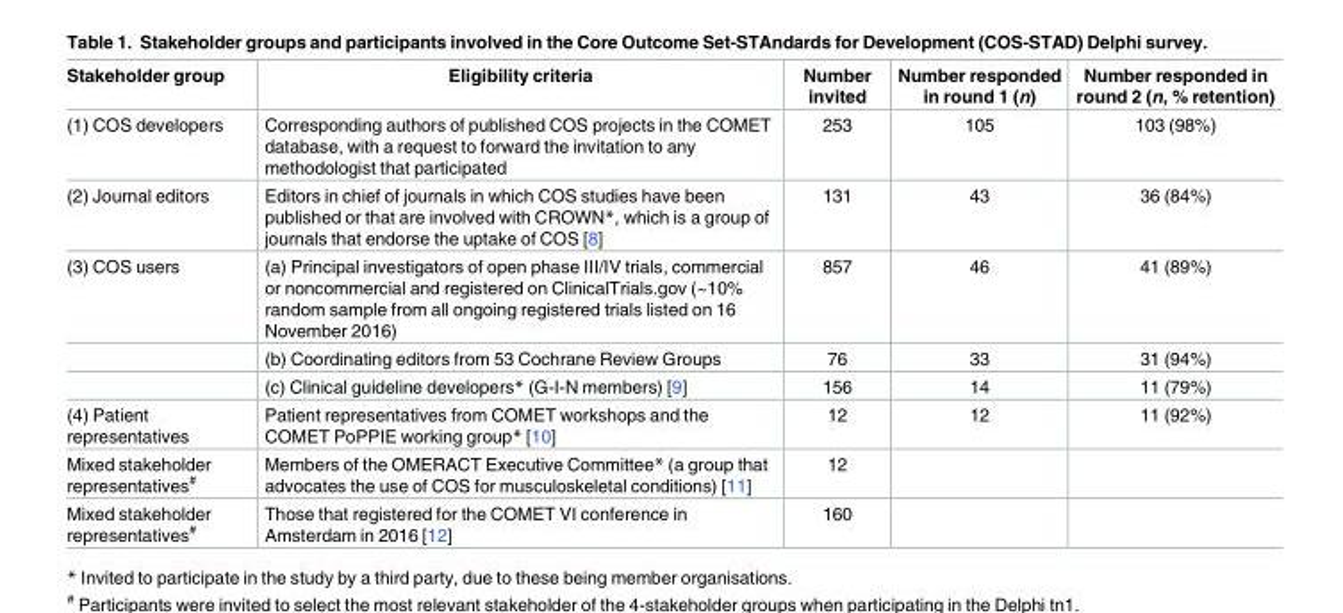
<table><thead><tr><td>Stakeholder group</td><td>Eligibility criteria</td><td>Number invited</td><td>Number responded in round 1 (n)</td><td>Number responded in round 2 (n, % retention)</td></tr></thead><tbody><tr><td>(1) COS developers</td><td>Corresponding authors of published COS projects in the COMET database, with a request to forward the invitation to any methodologist that participated</td><td>253</td><td>105</td><td>103 (98%)</td></tr><tr><td>(2) Journal editors</td><td>Editors in chief of journals in which COS studies have been published or that are involved with CROWN*, which is a group of journals that endorse the uptake of COS [8]</td><td>131</td><td>43</td><td>36 (84%)</td></tr><tr><td rowspan="3">(3) COS users</td><td>(a) Principal investigators of open phase III/IV trials, commercial or noncommercial and registered on ClinicalTrials.gov (~10% random sample from all ongoing registered trials listed on 16 November 2016)</td><td>857</td><td>46</td><td>41 (89%)</td></tr><tr><td>(b) Coordinating editors from 53 Cochrane Review Groups</td><td>76</td><td>33</td><td>31 (94%)</td></tr><tr><td>(c) Clinical guideline developers* (G-I-N members) [9]</td><td>156</td><td>14</td><td>11 (79%)</td></tr><tr><td>(4) Patient representatives</td><td>Patient representatives from COMET workshops and the COMET PoPPIE working group* [10]</td><td>12</td><td>12</td><td>11 (92%)</td></tr><tr><td>Mixed stakeholder representatives<sup>#</sup></td><td>Members of the OMERACT Executive Committee* (a group that advocates the use of COS for musculoskeletal conditions) [11]</td><td>12</td><td></td><td></td></tr><tr><td>Mixed stakeholder representatives<sup>#</sup></td><td>Those that registered for the COMET VI conference in Amsterdam in 2016 [12]</td><td>160</td><td></td><td></td></tr></tbody></table>